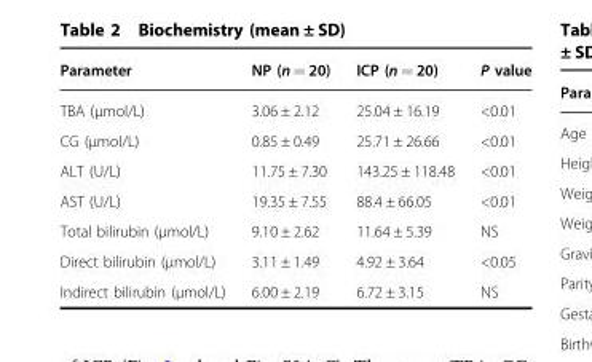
<table><thead><tr><td>Parameter</td><td>NP (n = 20)</td><td>ICP (n = 20)</td><td>P value</td></tr></thead><tbody><tr><td>TBA (µmol/L)</td><td>3.06 ± 2.12</td><td>25.04 ± 16.19</td><td>&lt;0.01</td></tr><tr><td>CG (µmol/L)</td><td>0.85 ± 0.49</td><td>25.71 ± 26.66</td><td>&lt;0.01</td></tr><tr><td>ALT (U/L)</td><td>11.75 ± 7.30</td><td>143.25 ± 118.48</td><td>&lt;0.01</td></tr><tr><td>AST (U/L)</td><td>19.35 ± 7.55</td><td>88.4 ± 66.05</td><td>&lt;0.01</td></tr><tr><td>Total bilirubin (µmol/L)</td><td>9.10 ± 2.62</td><td>11.64 ± 5.39</td><td>NS</td></tr><tr><td>Direct bilirubin (µmol/L)</td><td>3.11 ± 1.49</td><td>4.92 ± 3.64</td><td>&lt;0.05</td></tr><tr><td>Indirect bilirubin (µmol/L)</td><td>6.00 ± 2.19</td><td>6.72 ± 3.15</td><td>NS</td></tr></tbody></table>